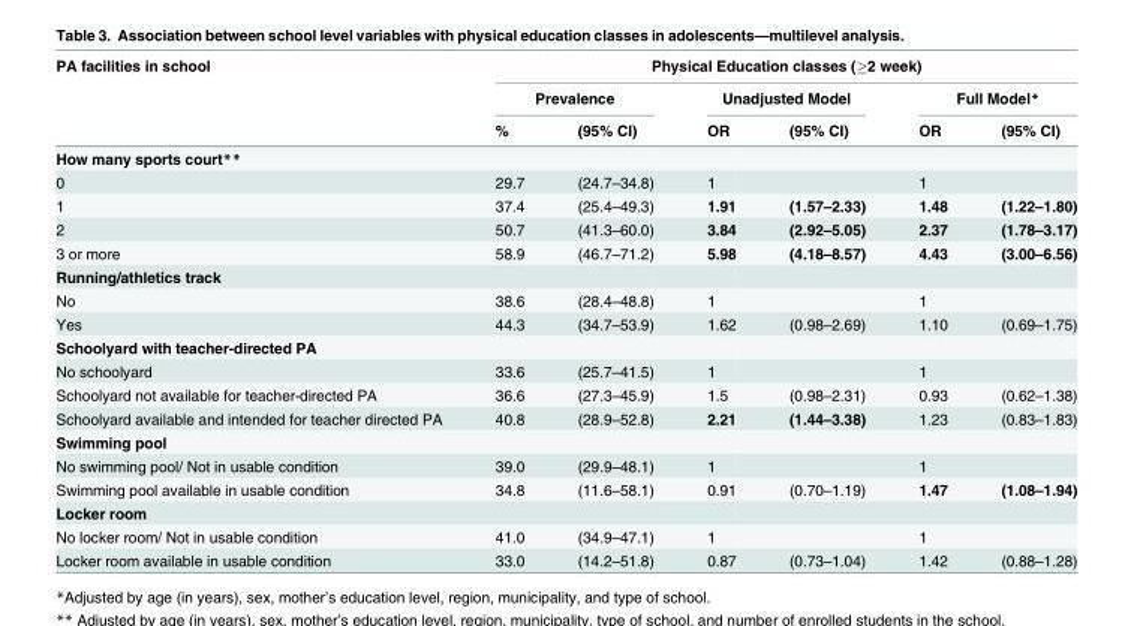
<table><thead><tr><td rowspan="3">PA facilities in school</td><td colspan="6">Physical Education classes (≥2 week)</td></tr><tr><td colspan="2">Prevalence</td><td colspan="2">Unadjusted Model</td><td colspan="2">Full Model*</td></tr><tr><td>%</td><td>(95% CI)</td><td>OR</td><td>(95% CI)</td><td>OR</td><td>(95% CI)</td></tr></thead><tbody><tr><td colspan="7">How many sports court**</td></tr><tr><td>0</td><td>29.7</td><td>(24.7–34.8)</td><td>1</td><td></td><td>1</td><td></td></tr><tr><td>1</td><td>37.4</td><td>(25.4–49.3)</td><td>1.91</td><td>(1.57–2.33)</td><td>1.48</td><td>(1.22–1.80)</td></tr><tr><td>2</td><td>50.7</td><td>(41.3–60.0)</td><td>3.84</td><td>(2.92–5.05)</td><td>2.37</td><td>(1.78–3.17)</td></tr><tr><td>3 or more</td><td>58.9</td><td>(46.7–71.2)</td><td>5.98</td><td>(4.18–8.57)</td><td>4.43</td><td>(3.00–6.56)</td></tr><tr><td colspan="7">Running/athletics track</td></tr><tr><td>No</td><td>38.6</td><td>(28.4–48.8)</td><td>1</td><td></td><td>1</td><td></td></tr><tr><td>Yes</td><td>44.3</td><td>(34.7–53.9)</td><td>1.62</td><td>(0.98–2.69)</td><td>1.10</td><td>(0.69–1.75)</td></tr><tr><td colspan="7">Schoolyard with teacher-directed PA</td></tr><tr><td>No schoolyard</td><td>33.6</td><td>(25.7–41.5)</td><td>1</td><td></td><td>1</td><td></td></tr><tr><td>Schoolyard not available for teacher-directed PA</td><td>36.6</td><td>(27.3–45.9)</td><td>1.5</td><td>(0.98–2.31)</td><td>0.93</td><td>(0.62–1.38)</td></tr><tr><td>Schoolyard available and intended for teacher directed PA</td><td>40.8</td><td>(28.9–52.8)</td><td>2.21</td><td>(1.44–3.38)</td><td>1.23</td><td>(0.83–1.83)</td></tr><tr><td colspan="7">Swimming pool</td></tr><tr><td>No swimming pool/ Not in usable condition</td><td>39.0</td><td>(29.9–48.1)</td><td>1</td><td></td><td>1</td><td></td></tr><tr><td>Swimming pool available in usable condition</td><td>34.8</td><td>(11.6–58.1)</td><td>0.91</td><td>(0.70–1.19)</td><td>1.47</td><td>(1.08–1.94)</td></tr><tr><td colspan="7">Locker room</td></tr><tr><td>No locker room/ Not in usable condition</td><td>41.0</td><td>(34.9–47.1)</td><td>1</td><td></td><td>1</td><td></td></tr><tr><td>Locker room available in usable condition</td><td>33.0</td><td>(14.2–51.8)</td><td>0.87</td><td>(0.73–1.04)</td><td>1.42</td><td>(0.88–1.28)</td></tr></tbody></table>